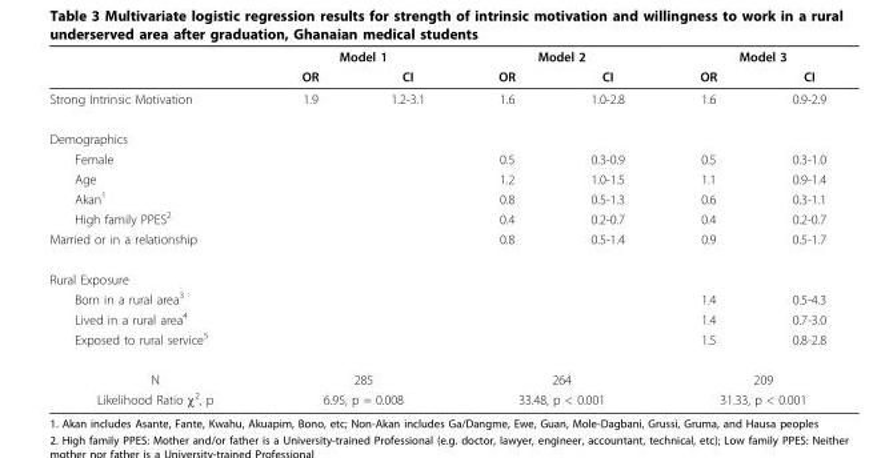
<table><thead><tr><td rowspan="2"></td><td colspan="2">Model 1</td><td colspan="2">Model 2</td><td colspan="2">Model 3</td></tr><tr><td>OR</td><td>CI</td><td>OR</td><td>CI</td><td>OR</td><td>CI</td></tr></thead><tbody><tr><td>Strong Intrinsic Motivation</td><td>1.9</td><td>1.2-3.1</td><td>1.6</td><td>1.0-2.8</td><td>1.6</td><td>0.9-2.9</td></tr><tr><td colspan="7">Demographics</td></tr><tr><td>Female</td><td></td><td></td><td>0.5</td><td>0.3-0.9</td><td>0.5</td><td>0.3-1.0</td></tr><tr><td>Age</td><td></td><td></td><td>1.2</td><td>1.0-1.5</td><td>1.1</td><td>0.9-1.4</td></tr><tr><td>Akan<sup>1</sup></td><td></td><td></td><td>0.8</td><td>0.5-1.3</td><td>0.6</td><td>0.3-1.1</td></tr><tr><td>High family PPES<sup>2</sup></td><td></td><td></td><td>0.4</td><td>0.2-0.7</td><td>0.4</td><td>0.2-0.7</td></tr><tr><td>Married or in a relationship</td><td></td><td></td><td>0.8</td><td>0.5-1.4</td><td>0.9</td><td>0.5-1.7</td></tr><tr><td colspan="7">Rural Exposure</td></tr><tr><td>Born in a rural area<sup>3</sup></td><td></td><td></td><td></td><td></td><td>1.4</td><td>0.5-4.3</td></tr><tr><td>Lived in a rural area<sup>4</sup></td><td></td><td></td><td></td><td></td><td>1.4</td><td>0.7-3.0</td></tr><tr><td>Exposed to rural service<sup>5</sup></td><td></td><td></td><td></td><td></td><td>1.5</td><td>0.8-2.8</td></tr><tr><td>N</td><td colspan="2">285</td><td colspan="2">264</td><td colspan="2">209</td></tr><tr><td>Likelihood Ratio χ<sup>2</sup>, p</td><td colspan="2">6.95, p = 0.008</td><td colspan="2">33.48, p &lt; 0.001</td><td colspan="2">31.33, p &lt; 0.001</td></tr></tbody></table>